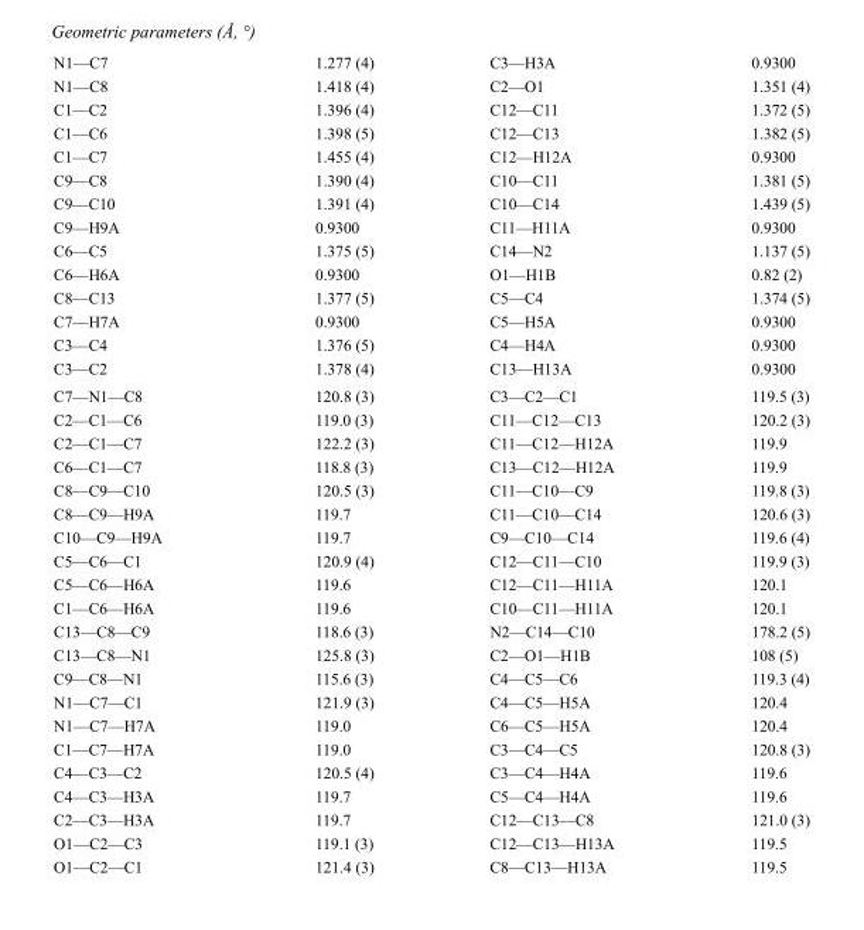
<table><tbody><tr><td>N1—C7</td><td>1.277 (4)</td><td>C3—H3A</td><td>0.9300</td></tr><tr><td>N1—C8</td><td>1.418 (4)</td><td>C2—O1</td><td>1.351 (4)</td></tr><tr><td>C1—C2</td><td>1.396 (4)</td><td>C12—C11</td><td>1.372 (5)</td></tr><tr><td>C1—C6</td><td>1.398 (5)</td><td>C12—C13</td><td>1.382 (5)</td></tr><tr><td>C1—C7</td><td>1.455 (4)</td><td>C12—H12A</td><td>0.9300</td></tr><tr><td>C9—C8</td><td>1.390 (4)</td><td>C10—C11</td><td>1.381 (5)</td></tr><tr><td>C9—C10</td><td>1.391 (4)</td><td>C10—C14</td><td>1.439 (5)</td></tr><tr><td>C9—H9A</td><td>0.9300</td><td>C11—H11A</td><td>0.9300</td></tr><tr><td>C6—C5</td><td>1.375 (5)</td><td>C14—N2</td><td>1.137 (5)</td></tr><tr><td>C6—H6A</td><td>0.9300</td><td>O1—H1B</td><td>0.82 (2)</td></tr><tr><td>C8—C13</td><td>1.377 (5)</td><td>C5—C4</td><td>1.374 (5)</td></tr><tr><td>C7—H7A</td><td>0.9300</td><td>C5—H5A</td><td>0.9300</td></tr><tr><td>C3—C4</td><td>1.376 (5)</td><td>C4—H4A</td><td>0.9300</td></tr><tr><td>C3—C2</td><td>1.378 (4)</td><td>C13—H13A</td><td>0.9300</td></tr><tr><td>C7—N1—C8</td><td>120.8 (3)</td><td>C3—C2—C1</td><td>119.5 (3)</td></tr><tr><td>C2—C1—C6</td><td>119.0 (3)</td><td>C11—C12—C13</td><td>120.2 (3)</td></tr><tr><td>C2—C1—C7</td><td>122.2 (3)</td><td>C11—C12—H12A</td><td>119.9</td></tr><tr><td>C6—C1—C7</td><td>118.8 (3)</td><td>C13—C12—H12A</td><td>119.9</td></tr><tr><td>C8—C9—C10</td><td>120.5 (3)</td><td>C11—C10—C9</td><td>119.8 (3)</td></tr><tr><td>C8—C9—H9A</td><td>119.7</td><td>C11—C10—C14</td><td>120.6 (3)</td></tr><tr><td>C10—C9—H9A</td><td>119.7</td><td>C9—C10—C14</td><td>119.6 (4)</td></tr><tr><td>C5—C6—C1</td><td>120.9 (4)</td><td>C12—C11—C10</td><td>119.9 (3)</td></tr><tr><td>C5—C6—H6A</td><td>119.6</td><td>C12—C11—H11A</td><td>120.1</td></tr><tr><td>C1—C6—H6A</td><td>119.6</td><td>C10—C11—H11A</td><td>120.1</td></tr><tr><td>C13—C8—C9</td><td>118.6 (3)</td><td>N2—C14—C10</td><td>178.2 (5)</td></tr><tr><td>C13—C8—N1</td><td>125.8 (3)</td><td>C2—O1—H1B</td><td>108 (5)</td></tr><tr><td>C9—C8—N1</td><td>115.6 (3)</td><td>C4—C5—C6</td><td>119.3 (4)</td></tr><tr><td>N1—C7—C1</td><td>121.9 (3)</td><td>C4—C5—H5A</td><td>120.4</td></tr><tr><td>N1—C7—H7A</td><td>119.0</td><td>C6—C5—H5A</td><td>120.4</td></tr><tr><td>C1—C7—H7A</td><td>119.0</td><td>C3—C4—C5</td><td>120.8 (3)</td></tr><tr><td>C4—C3—C2</td><td>120.5 (4)</td><td>C3—C4—H4A</td><td>119.6</td></tr><tr><td>C4—C3—H3A</td><td>119.7</td><td>C5—C4—H4A</td><td>119.6</td></tr><tr><td>C2—C3—H3A</td><td>119.7</td><td>C12—C13—C8</td><td>121.0 (3)</td></tr><tr><td>O1—C2—C3</td><td>119.1 (3)</td><td>C12—C13—H13A</td><td>119.5</td></tr><tr><td>O1—C2—C1</td><td>121.4 (3)</td><td>C8—C13—H13A</td><td>119.5</td></tr></tbody></table>